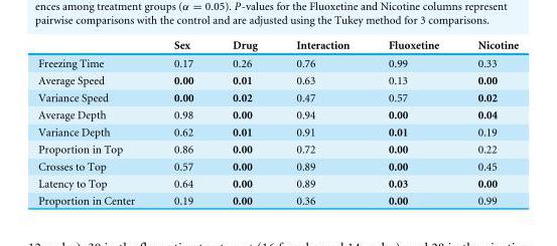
<table><thead><tr><td></td><td>Sex</td><td>Drug</td><td>Interaction</td><td>Fluoxetine</td><td>Nicotine</td></tr></thead><tbody><tr><td>Freezing Time</td><td>0.17</td><td>0.26</td><td>0.76</td><td>0.99</td><td>0.33</td></tr><tr><td>Average Speed</td><td>0.00</td><td>0.01</td><td>0.63</td><td>0.13</td><td>0.00</td></tr><tr><td>Variance Speed</td><td>0.00</td><td>0.02</td><td>0.47</td><td>0.57</td><td>0.02</td></tr><tr><td>Average Depth</td><td>0.98</td><td>0.00</td><td>0.94</td><td>0.00</td><td>0.04</td></tr><tr><td>Variance Depth</td><td>0.62</td><td>0.01</td><td>0.91</td><td>0.01</td><td>0.19</td></tr><tr><td>Proportion in Top</td><td>0.86</td><td>0.00</td><td>0.72</td><td>0.00</td><td>0.22</td></tr><tr><td>Crosses to Top</td><td>0.57</td><td>0.00</td><td>0.89</td><td>0.00</td><td>0.45</td></tr><tr><td>Latency to Top</td><td>0.64</td><td>0.00</td><td>0.89</td><td>0.03</td><td>0.00</td></tr><tr><td>Proportion in Center</td><td>0.19</td><td>0.00</td><td>0.36</td><td>0.00</td><td>0.99</td></tr></tbody></table>